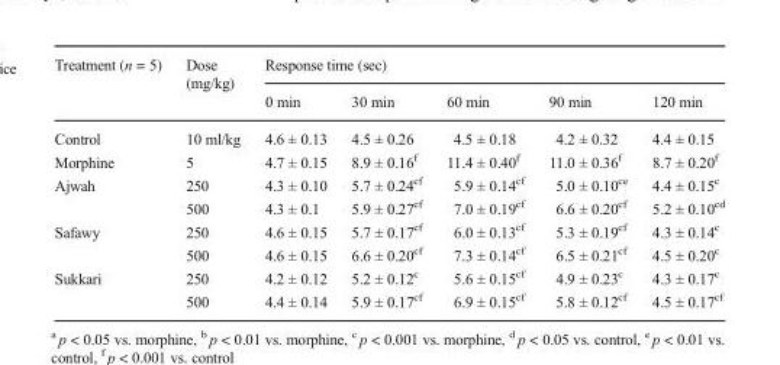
<table><thead><tr><td rowspan="2">Treatment (n = 5)</td><td rowspan="2">Dose (mg/kg)</td><td colspan="5">Response time (sec)</td></tr><tr><td>0 min</td><td>30 min</td><td>60 min</td><td>90 min</td><td>120 min</td></tr></thead><tbody><tr><td>Control</td><td>10 ml/kg</td><td>4.6 ± 0.13</td><td>4.5 ± 0.26</td><td>4.5 ± 0.18</td><td>4.2 ± 0.32</td><td>4.4 ± 0.15</td></tr><tr><td>Morphine</td><td>5</td><td>4.7 ± 0.15</td><td>8.9 ± 0.16<sup>f</sup></td><td>11.4 ± 0.40<sup>f</sup></td><td>11.0 ± 0.36<sup>f</sup></td><td>8.7 ± 0.20<sup>f</sup></td></tr><tr><td rowspan="2">Ajwah</td><td>250</td><td>4.3 ± 0.10</td><td>5.7 ± 0.24<sup>cf</sup></td><td>5.9 ± 0.14<sup>cf</sup></td><td>5.0 ± 0.10<sup>ce</sup></td><td>4.4 ± 0.15<sup>c</sup></td></tr><tr><td>500</td><td>4.3 ± 0.1</td><td>5.9 ± 0.27<sup>cf</sup></td><td>7.0 ± 0.19<sup>cf</sup></td><td>6.6 ± 0.20<sup>cf</sup></td><td>5.2 ± 0.10<sup>cd</sup></td></tr><tr><td rowspan="2">Safawy</td><td>250</td><td>4.6 ± 0.15</td><td>5.7 ± 0.17<sup>cf</sup></td><td>6.0 ± 0.13<sup>cf</sup></td><td>5.3 ± 0.19<sup>cf</sup></td><td>4.3 ± 0.14<sup>c</sup></td></tr><tr><td>500</td><td>4.6 ± 0.15</td><td>6.6 ± 0.20<sup>cf</sup></td><td>7.3 ± 0.14<sup>cf</sup></td><td>6.5 ± 0.21<sup>cf</sup></td><td>4.5 ± 0.20<sup>c</sup></td></tr><tr><td rowspan="2">Sukkari</td><td>250</td><td>4.2 ± 0.12</td><td>5.2 ± 0.12<sup>c</sup></td><td>5.6 ± 0.15<sup>cf</sup></td><td>4.9 ± 0.23<sup>c</sup></td><td>4.3 ± 0.17<sup>c</sup></td></tr><tr><td>500</td><td>4.4 ± 0.14</td><td>5.9 ± 0.17<sup>cf</sup></td><td>6.9 ± 0.15<sup>cf</sup></td><td>5.8 ± 0.12<sup>cf</sup></td><td>4.5 ± 0.17<sup>cf</sup></td></tr></tbody></table>